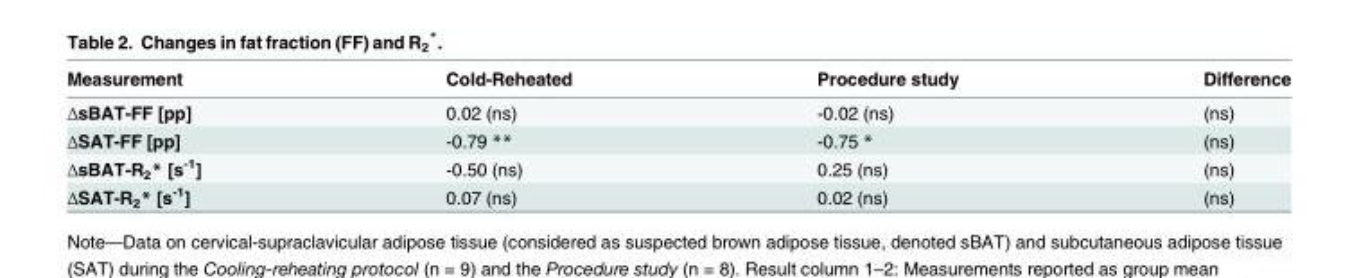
<table><thead><tr><td>Measurement</td><td>Cold-Reheated</td><td>Procedure study</td><td>Difference</td></tr></thead><tbody><tr><td>ΔsBAT-FF [pp]</td><td>0.02 (ns)</td><td>-0.02 (ns)</td><td>(ns)</td></tr><tr><td>ΔSAT-FF [pp]</td><td>-0.79 **</td><td>-0.75 *</td><td>(ns)</td></tr><tr><td>ΔsBAT-R2* [s-1]</td><td>-0.50 (ns)</td><td>0.25 (ns)</td><td>(ns)</td></tr><tr><td>ΔSAT-R2* [s-1]</td><td>0.07 (ns)</td><td>0.02 (ns)</td><td>(ns)</td></tr></tbody></table>